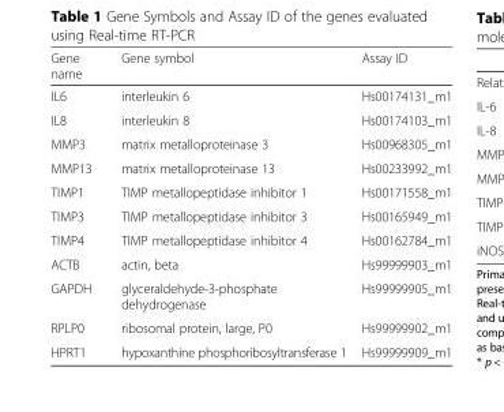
<table><thead><tr><td>Gene name</td><td>Gene symbol</td><td>Assay ID</td></tr></thead><tbody><tr><td>IL6</td><td>interleukin 6</td><td>Hs00174131_m1</td></tr><tr><td>IL8</td><td>interleukin 8</td><td>Hs00174103_m1</td></tr><tr><td>MMP3</td><td>matrix metalloproteinase 3</td><td>Hs00968305_m1</td></tr><tr><td>MMP13</td><td>matrix metalloproteinase 13</td><td>Hs00233992_m1</td></tr><tr><td>TIMP1</td><td>TIMP metallopeptidase inhibitor 1</td><td>Hs00171558_m1</td></tr><tr><td>TIMP3</td><td>TIMP metallopeptidase inhibitor 3</td><td>Hs00165949_m1</td></tr><tr><td>TIMP4</td><td>TIMP metallopeptidase inhibitor 4</td><td>Hs00162784_m1</td></tr><tr><td>ACTB</td><td>actin, beta</td><td>Hs99999903_m1</td></tr><tr><td>GAPDH</td><td>glyceraldehyde-3-phosphate dehydrogenase</td><td>Hs99999905_m1</td></tr><tr><td>RPLP0</td><td>ribosomal protein, large, P0</td><td>Hs99999902_m1</td></tr><tr><td>HPRT1</td><td>hypoxanthine phosphoribosyltransferase 1</td><td>Hs99999909_m1</td></tr></tbody></table>